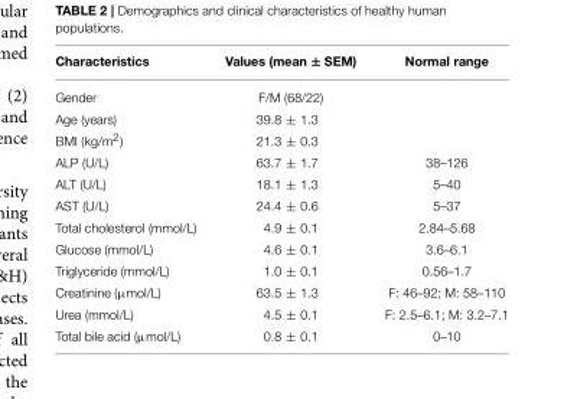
<table><thead><tr><td>Characteristics</td><td>Values (mean ± SEM)</td><td>Normal range</td></tr></thead><tbody><tr><td>Gender</td><td>F/M (68/22)</td><td></td></tr><tr><td>Age (years)</td><td>39.8 ± 1.3</td><td></td></tr><tr><td>BMI (kg/m<sup>2</sup>)</td><td>21.3 ± 0.3</td><td></td></tr><tr><td>ALP (U/L)</td><td>63.7 ± 1.7</td><td>38–126</td></tr><tr><td>ALT (U/L)</td><td>18.1 ± 1.3</td><td>5–40</td></tr><tr><td>AST (U/L)</td><td>24.4 ± 0.6</td><td>5–37</td></tr><tr><td>Total cholesterol (mmol/L)</td><td>4.9 ± 0.1</td><td>2.84–5.68</td></tr><tr><td>Glucose (mmol/L)</td><td>4.6 ± 0.1</td><td>3.6–6.1</td></tr><tr><td>Triglyceride (mmol/L)</td><td>1.0 ± 0.1</td><td>0.56–1.7</td></tr><tr><td>Creatinine (µmol/L)</td><td>63.5 ± 1.3</td><td>F: 46–92; M: 58–110</td></tr><tr><td>Urea (mmol/L)</td><td>4.5 ± 0.1</td><td>F: 2.5–6.1; M: 3.2–7.1</td></tr><tr><td>Total bile acid (µmol/L)</td><td>0.8 ± 0.1</td><td>0–10</td></tr></tbody></table>